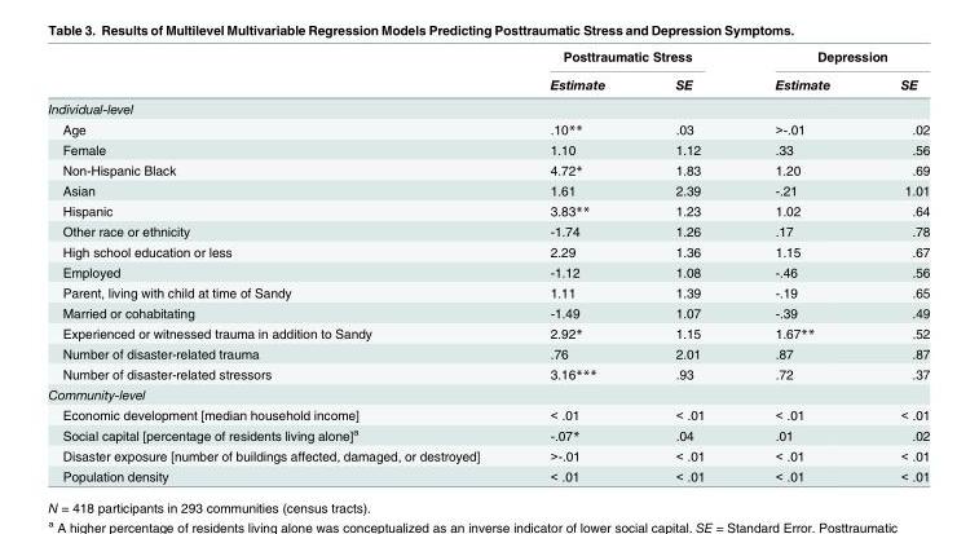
<table><thead><tr><td rowspan="2"></td><td colspan="2">Posttraumatic Stress</td><td colspan="2">Depression</td></tr><tr><td>Estimate</td><td>SE</td><td>Estimate</td><td>SE</td></tr></thead><tbody><tr><td colspan="5">Individual-level</td></tr><tr><td>Age</td><td>.10**</td><td>.03</td><td>&gt;-.01</td><td>.02</td></tr><tr><td>Female</td><td>1.10</td><td>1.12</td><td>.33</td><td>.56</td></tr><tr><td>Non-Hispanic Black</td><td>4.72*</td><td>1.83</td><td>1.20</td><td>.69</td></tr><tr><td>Asian</td><td>1.61</td><td>2.39</td><td>-.21</td><td>1.01</td></tr><tr><td>Hispanic</td><td>3.83**</td><td>1.23</td><td>1.02</td><td>.64</td></tr><tr><td>Other race or ethnicity</td><td>-1.74</td><td>1.26</td><td>.17</td><td>.78</td></tr><tr><td>High school education or less</td><td>2.29</td><td>1.36</td><td>1.15</td><td>.67</td></tr><tr><td>Employed</td><td>-1.12</td><td>1.08</td><td>-.46</td><td>.56</td></tr><tr><td>Parent, living with child at time of Sandy</td><td>1.11</td><td>1.39</td><td>-.19</td><td>.65</td></tr><tr><td>Married or cohabitating</td><td>-1.49</td><td>1.07</td><td>-.39</td><td>.49</td></tr><tr><td>Experienced or witnessed trauma in addition to Sandy</td><td>2.92*</td><td>1.15</td><td>1.67**</td><td>.52</td></tr><tr><td>Number of disaster-related trauma</td><td>.76</td><td>2.01</td><td>.87</td><td>.87</td></tr><tr><td>Number of disaster-related stressors</td><td>3.16***</td><td>.93</td><td>.72</td><td>.37</td></tr><tr><td colspan="5">Community-level</td></tr><tr><td>Economic development [median household income]</td><td>&lt; .01</td><td>&lt; .01</td><td>&lt; .01</td><td>&lt; .01</td></tr><tr><td>Social capital [percentage of residents living alone]<sup>a</sup></td><td>-.07*</td><td>.04</td><td>.01</td><td>.02</td></tr><tr><td>Disaster exposure [number of buildings affected, damaged, or destroyed]</td><td>&gt;-.01</td><td>&lt; .01</td><td>&lt; .01</td><td>&lt; .01</td></tr><tr><td>Population density</td><td>&lt; .01</td><td>&lt; .01</td><td>&lt; .01</td><td>&lt; .01</td></tr></tbody></table>